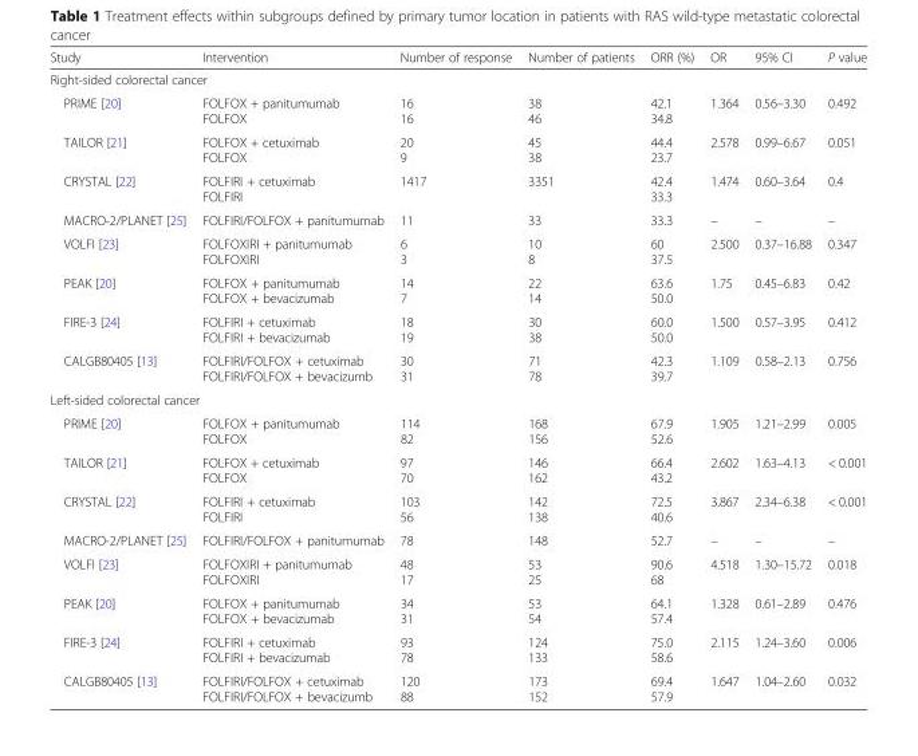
<table><thead><tr><td>Study</td><td>Intervention</td><td>Number of response</td><td>Number of patients</td><td>ORR (%)</td><td>OR</td><td>95% CI</td><td>P value</td></tr></thead><tbody><tr><td colspan="8">Right-sided colorectal cancer</td></tr><tr><td>PRIME [20]</td><td>FOLFOX + panitumumab FOLFOX</td><td>16 16</td><td>38 46</td><td>42.1 34.8</td><td>1.364</td><td>0.56–3.30</td><td>0.492</td></tr><tr><td>TAILOR [21]</td><td>FOLFOX + cetuximab FOLFOX</td><td>20 9</td><td>45 38</td><td>44.4 23.7</td><td>2.578</td><td>0.99–6.67</td><td>0.051</td></tr><tr><td>CRYSTAL [22]</td><td>FOLFIRI + cetuximab FOLFIRI</td><td>1417</td><td>3351</td><td>42.4 33.3</td><td>1.474</td><td>0.60–3.64</td><td>0.4</td></tr><tr><td>MACRO-2/PLANET [25]</td><td>FOLFIRI/FOLFOX + panitumumab</td><td>11</td><td>33</td><td>33.3</td><td>–</td><td>–</td><td>–</td></tr><tr><td>VOLFI [23]</td><td>FOLFOXIRI + panitumumab FOLFOXIRI</td><td>6 3</td><td>10 8</td><td>60 37.5</td><td>2.500</td><td>0.37–16.88</td><td>0.347</td></tr><tr><td>PEAK [20]</td><td>FOLFOX + panitumumab FOLFOX + bevacizumab</td><td>14 7</td><td>22 14</td><td>63.6 50.0</td><td>1.75</td><td>0.45–6.83</td><td>0.42</td></tr><tr><td>FIRE-3 [24]</td><td>FOLFIRI + cetuximab FOLFIRI + bevacizumab</td><td>18 19</td><td>30 38</td><td>60.0 50.0</td><td>1.500</td><td>0.57–3.95</td><td>0.412</td></tr><tr><td>CALGB80405 [13]</td><td>FOLFIRI/FOLFOX + cetuximab FOLFIRI/FOLFOX + bevacizumb</td><td>30 31</td><td>71 78</td><td>42.3 39.7</td><td>1.109</td><td>0.58–2.13</td><td>0.756</td></tr><tr><td colspan="8">Left-sided colorectal cancer</td></tr><tr><td>PRIME [20]</td><td>FOLFOX + panitumumab FOLFOX</td><td>114 82</td><td>168 156</td><td>67.9 52.6</td><td>1.905</td><td>1.21–2.99</td><td>0.005</td></tr><tr><td>TAILOR [21]</td><td>FOLFOX + cetuximab FOLFOX</td><td>97 70</td><td>146 162</td><td>66.4 43.2</td><td>2.602</td><td>1.63–4.13</td><td>&lt; 0.001</td></tr><tr><td>CRYSTAL [22]</td><td>FOLFIRI + cetuximab FOLFIRI</td><td>103 56</td><td>142 138</td><td>72.5 40.6</td><td>3.867</td><td>2.34–6.38</td><td>&lt; 0.001</td></tr><tr><td>MACRO-2/PLANET [25]</td><td>FOLFIRI/FOLFOX + panitumumab</td><td>78</td><td>148</td><td>52.7</td><td>–</td><td>–</td><td>–</td></tr><tr><td>VOLFI [23]</td><td>FOLFOXIRI + panitumumab FOLFOXIRI</td><td>48 17</td><td>53 25</td><td>90.6 68</td><td>4.518</td><td>1.30–15.72</td><td>0.018</td></tr><tr><td>PEAK [20]</td><td>FOLFOX + panitumumab FOLFOX + bevacizumab</td><td>34 31</td><td>53 54</td><td>64.1 57.4</td><td>1.328</td><td>0.61–2.89</td><td>0.476</td></tr><tr><td>FIRE-3 [24]</td><td>FOLFIRI + cetuximab FOLFIRI + bevacizumab</td><td>93 78</td><td>124 133</td><td>75.0 58.6</td><td>2.115</td><td>1.24–3.60</td><td>0.006</td></tr><tr><td>CALGB80405 [13]</td><td>FOLFIRI/FOLFOX + cetuximab FOLFIRI/FOLFOX + bevacizumb</td><td>120 88</td><td>173 152</td><td>69.4 57.9</td><td>1.647</td><td>1.04–2.60</td><td>0.032</td></tr></tbody></table>